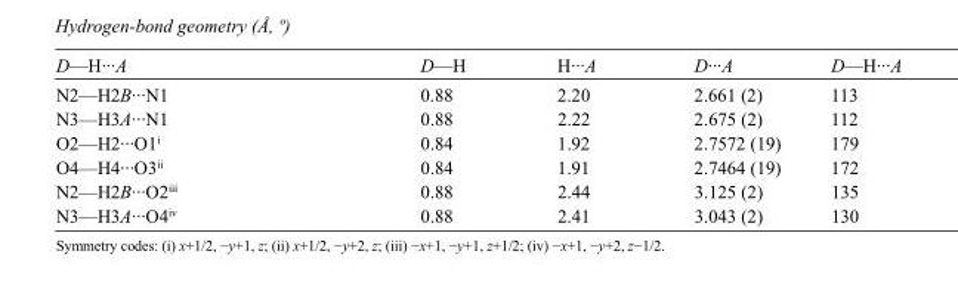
<table><tbody><tr><td>D—H···A</td><td>D—H</td><td>H···A</td><td>D···A</td><td>D—H···A</td></tr><tr><td>N2—H2B···N1</td><td>0.88</td><td>2.20</td><td>2.661 (2)</td><td>113</td></tr><tr><td>N3—H3A···N1</td><td>0.88</td><td>2.22</td><td>2.675 (2)</td><td>112</td></tr><tr><td>O2—H2···O1<sup>i</sup></td><td>0.84</td><td>1.92</td><td>2.7572 (19)</td><td>179</td></tr><tr><td>O4—H4···O3<sup>ii</sup></td><td>0.84</td><td>1.91</td><td>2.7464 (19)</td><td>172</td></tr><tr><td>N2—H2B···O2<sup>iii</sup></td><td>0.88</td><td>2.44</td><td>3.125 (2)</td><td>135</td></tr><tr><td>N3—H3A···O4<sup>iv</sup></td><td>0.88</td><td>2.41</td><td>3.043 (2)</td><td>130</td></tr></tbody></table>